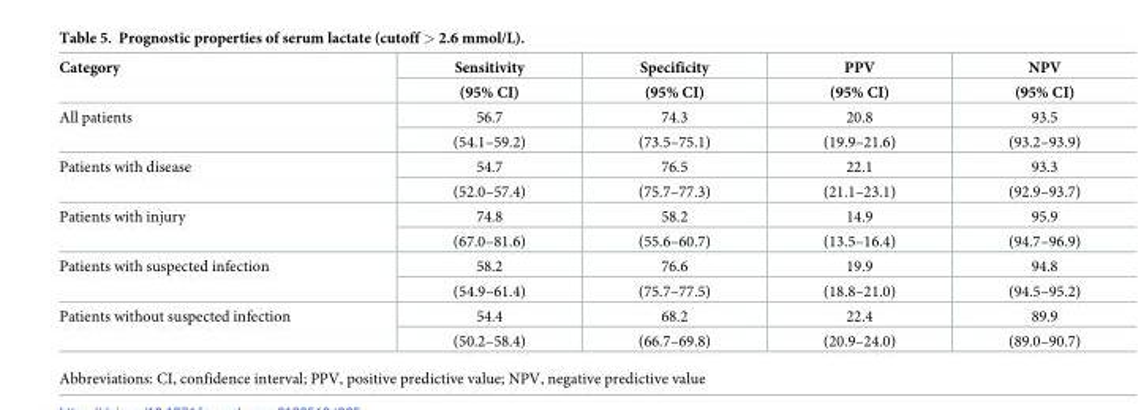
<table><thead><tr><td rowspan="2">Category</td><td rowspan="2">Sensitivity (95% CI)</td><td rowspan="2">Specificity (95% CI)</td><td rowspan="2">PPV (95% CI)</td><td rowspan="2">NPV (95% CI)</td></tr><tr></tr></thead><tbody><tr><td rowspan="2">All patients</td><td>56.7</td><td>74.3</td><td>20.8</td><td>93.5</td></tr><tr><td>(54.1–59.2)</td><td>(73.5–75.1)</td><td>(19.9–21.6)</td><td>(93.2–93.9)</td></tr><tr><td rowspan="2">Patients with disease</td><td>54.7</td><td>76.5</td><td>22.1</td><td>93.3</td></tr><tr><td>(52.0–57.4)</td><td>(75.7–77.3)</td><td>(21.1–23.1)</td><td>(92.9–93.7)</td></tr><tr><td rowspan="2">Patients with injury</td><td>74.8</td><td>58.2</td><td>14.9</td><td>95.9</td></tr><tr><td>(67.0–81.6)</td><td>(55.6–60.7)</td><td>(13.5–16.4)</td><td>(94.7–96.9)</td></tr><tr><td rowspan="2">Patients with suspected infection</td><td>58.2</td><td>76.6</td><td>19.9</td><td>94.8</td></tr><tr><td>(54.9–61.4)</td><td>(75.7–77.5)</td><td>(18.8–21.0)</td><td>(94.5–95.2)</td></tr><tr><td rowspan="2">Patients without suspected infection</td><td>54.4</td><td>68.2</td><td>22.4</td><td>89.9</td></tr><tr><td>(50.2–58.4)</td><td>(66.7–69.8)</td><td>(20.9–24.0)</td><td>(89.0–90.7)</td></tr></tbody></table>